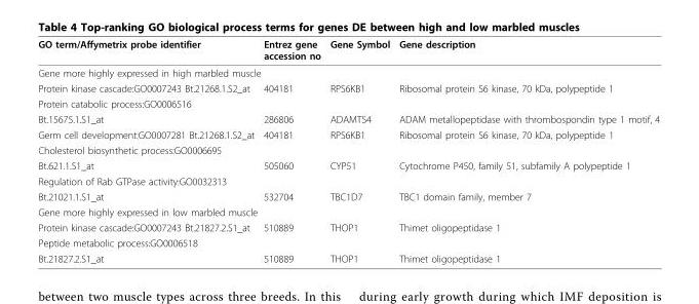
<table><thead><tr><td>GO term/Affymetrix probe identifier</td><td>Entrez gene accession no</td><td>Gene Symbol</td><td>Gene description</td></tr></thead><tbody><tr><td colspan="4">Gene more highly expressed in high marbled muscle</td></tr><tr><td>Protein kinase cascade:GO0007243 Bt.21268.1.S2_at</td><td>404181</td><td>RPS6KB1</td><td>Ribosomal protein S6 kinase, 70 kDa, polypeptide 1</td></tr><tr><td colspan="4">Protein catabolic process:GO0006516</td></tr><tr><td>Bt.15675.1.S1_at</td><td>286806</td><td>ADAMTS4</td><td>ADAM metallopeptidase with thrombospondin type 1 motif, 4</td></tr><tr><td>Germ cell development:GO0007281 Bt.21268.1.S2_at</td><td>404181</td><td>RPS6KB1</td><td>Ribosomal protein S6 kinase, 70 kDa, polypeptide 1</td></tr><tr><td colspan="4">Cholesterol biosynthetic process:GO0006695</td></tr><tr><td>Bt.621.1.S1_at</td><td>505060</td><td>CYP51</td><td>Cytochrome P450, family 51, subfamily A polypeptide 1</td></tr><tr><td colspan="4">Regulation of Rab GTPase activity:GO0032313</td></tr><tr><td>Bt.21021.1.S1_at</td><td>532704</td><td>TBC1D7</td><td>TBC1 domain family, member 7</td></tr><tr><td colspan="4">Gene more highly expressed in low marbled muscle</td></tr><tr><td>Protein kinase cascade:GO0007243 Bt.21827.2.S1_at</td><td>510889</td><td>THOP1</td><td>Thimet oligopeptidase 1</td></tr><tr><td colspan="4">Peptide metabolic process:GO0006518</td></tr><tr><td>Bt.21827.2.S1_at</td><td>510889</td><td>THOP1</td><td>Thimet oligopeptidase 1</td></tr></tbody></table>